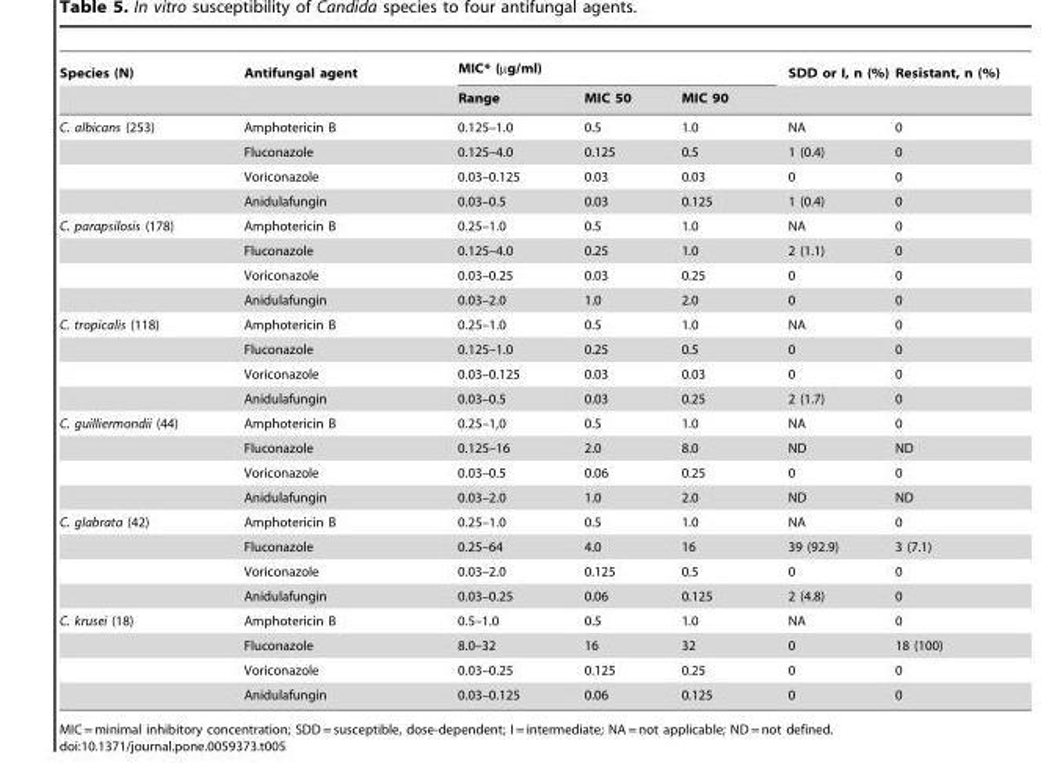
<table><thead><tr><td rowspan="2">Species (N)</td><td rowspan="2">Antifungal agent</td><td colspan="3">MIC* (µg/ml)</td><td rowspan="2">SDD or I, n (%)</td><td rowspan="2">Resistant, n (%)</td></tr><tr><td>Range</td><td>MIC 50</td><td>MIC 90</td></tr></thead><tbody><tr><td rowspan="4">C. albicans (253)</td><td>Amphotericin B</td><td>0.125–1.0</td><td>0.5</td><td>1.0</td><td>NA</td><td>0</td></tr><tr><td>Fluconazole</td><td>0.125–4.0</td><td>0.125</td><td>0.5</td><td>1 (0.4)</td><td>0</td></tr><tr><td>Voriconazole</td><td>0.03–0.125</td><td>0.03</td><td>0.03</td><td>0</td><td>0</td></tr><tr><td>Anidulafungin</td><td>0.03–0.5</td><td>0.03</td><td>0.125</td><td>1 (0.4)</td><td>0</td></tr><tr><td rowspan="4">C. parapsilosis (178)</td><td>Amphotericin B</td><td>0.25–1.0</td><td>0.5</td><td>1.0</td><td>NA</td><td>0</td></tr><tr><td>Fluconazole</td><td>0.125–4.0</td><td>0.25</td><td>1.0</td><td>2 (1.1)</td><td>0</td></tr><tr><td>Voriconazole</td><td>0.03–0.25</td><td>0.03</td><td>0.25</td><td>0</td><td>0</td></tr><tr><td>Anidulafungin</td><td>0.03–2.0</td><td>1.0</td><td>2.0</td><td>0</td><td>0</td></tr><tr><td rowspan="4">C. tropicalis (118)</td><td>Amphotericin B</td><td>0.25–1.0</td><td>0.5</td><td>1.0</td><td>NA</td><td>0</td></tr><tr><td>Fluconazole</td><td>0.125–1.0</td><td>0.25</td><td>0.5</td><td>0</td><td>0</td></tr><tr><td>Voriconazole</td><td>0.03–0.125</td><td>0.03</td><td>0.03</td><td>0</td><td>0</td></tr><tr><td>Anidulafungin</td><td>0.03–0.5</td><td>0.03</td><td>0.25</td><td>2 (1.7)</td><td>0</td></tr><tr><td rowspan="4">C. guilliermondii (44)</td><td>Amphotericin B</td><td>0.25–1,0</td><td>0.5</td><td>1.0</td><td>NA</td><td>0</td></tr><tr><td>Fluconazole</td><td>0.125–16</td><td>2.0</td><td>8.0</td><td>ND</td><td>ND</td></tr><tr><td>Voriconazole</td><td>0.03–0.5</td><td>0.06</td><td>0.25</td><td>0</td><td>0</td></tr><tr><td>Anidulafungin</td><td>0.03–2.0</td><td>1.0</td><td>2.0</td><td>ND</td><td>ND</td></tr><tr><td rowspan="4">C. glabrata (42)</td><td>Amphotericin B</td><td>0.25–1.0</td><td>0.5</td><td>1.0</td><td>NA</td><td>0</td></tr><tr><td>Fluconazole</td><td>0.25–64</td><td>4.0</td><td>16</td><td>39 (92.9)</td><td>3 (7.1)</td></tr><tr><td>Voriconazole</td><td>0.03–2.0</td><td>0.125</td><td>0.5</td><td>0</td><td>0</td></tr><tr><td>Anidulafungin</td><td>0.03–0.25</td><td>0.06</td><td>0.125</td><td>2 (4.8)</td><td>0</td></tr><tr><td rowspan="4">C. krusei (18)</td><td>Amphotericin B</td><td>0.5–1.0</td><td>0.5</td><td>1.0</td><td>NA</td><td>0</td></tr><tr><td>Fluconazole</td><td>8.0–32</td><td>16</td><td>32</td><td>0</td><td>18 (100)</td></tr><tr><td>Voriconazole</td><td>0.03–0.25</td><td>0.125</td><td>0.25</td><td>0</td><td>0</td></tr><tr><td>Anidulafungin</td><td>0.03–0.125</td><td>0.06</td><td>0.125</td><td>0</td><td>0</td></tr></tbody></table>